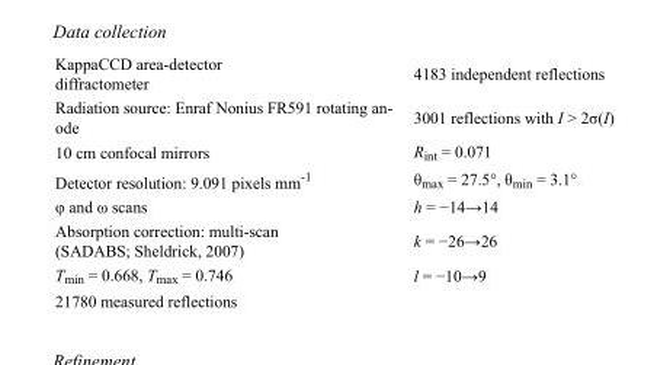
<table><tbody><tr><td>KappaCCD area-detector diffractometer</td><td>4183 independent reflections</td></tr><tr><td>Radiation source: Enraf Nonius FR591 rotating an- ode</td><td>3001 reflections with I &gt; 2σ(I)</td></tr><tr><td>10 cm confocal mirrors</td><td>R<sub>int</sub> = 0.071</td></tr><tr><td>Detector resolution: 9.091 pixels mm<sup>-1</sup></td><td>θ<sub>max</sub> = 27.5°, θ<sub>min</sub> = 3.1°</td></tr><tr><td>φ and ω scans</td><td>h = −14→14</td></tr><tr><td>Absorption correction: multi-scan (SADABS; Sheldrick, 2007)</td><td>k = −26→26</td></tr><tr><td>T<sub>min</sub> = 0.668, T<sub>max</sub> = 0.746</td><td>l = −10→9</td></tr><tr><td>21780 measured reflections</td><td></td></tr></tbody></table>